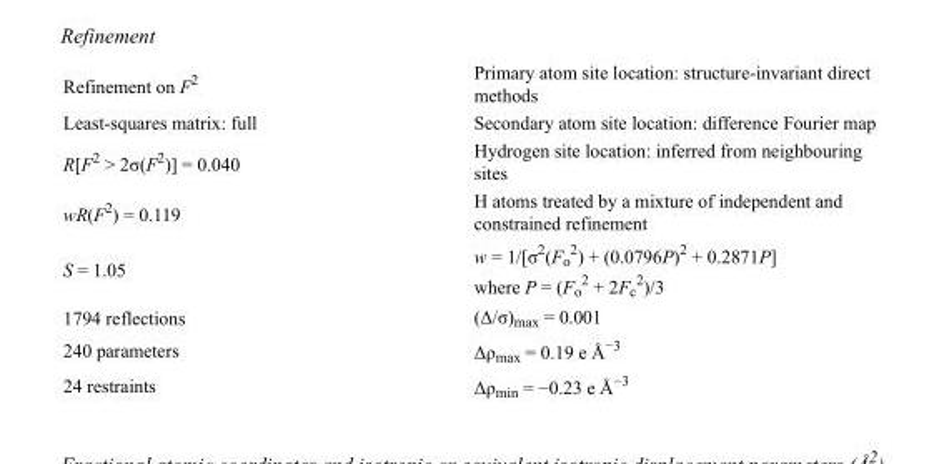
<table><tbody><tr><td>Refinement on F<sup>2</sup></td><td>Primary atom site location: structure-invariant direct methods</td></tr><tr><td>Least-squares matrix: full</td><td>Secondary atom site location: difference Fourier map</td></tr><tr><td>R[F<sup>2</sup> &gt; 2σ(F<sup>2</sup>)] = 0.040</td><td>Hydrogen site location: inferred from neighbouring sites</td></tr><tr><td>wR(F<sup>2</sup>) = 0.119</td><td>H atoms treated by a mixture of independent and constrained refinement</td></tr><tr><td>S = 1.05</td><td>w = 1/[σ<sup>2</sup>(F<sub>o</sub> <sup>2</sup>) + (0.0796P)<sup>2</sup> + 0.2871P] where P = (F<sub>o</sub> <sup>2</sup> + 2F<sub>c</sub> <sup>2</sup>)/3</td></tr><tr><td>1794 reflections</td><td>(Δ/σ)<sub>max</sub> = 0.001</td></tr><tr><td>240 parameters</td><td>Δρ<sub>max</sub> = 0.19 e Å<sup>−3</sup></td></tr><tr><td>24 restraints</td><td>Δρ<sub>min</sub> = −0.23 e Å<sup>−3</sup></td></tr></tbody></table>